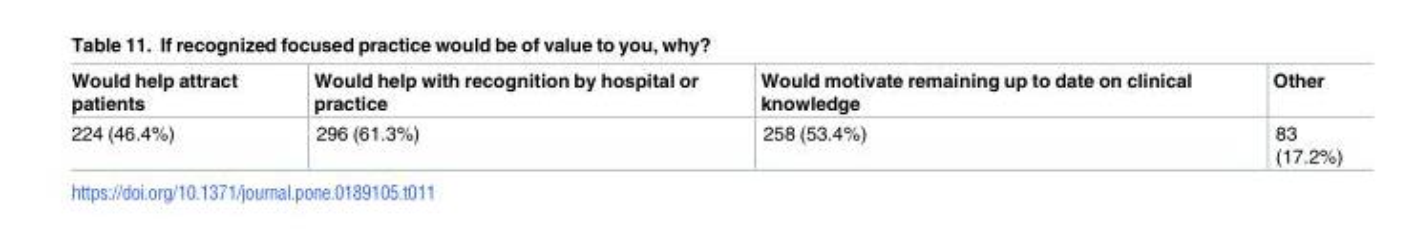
<table><thead><tr><td>Would help attract patients</td><td>Would help with recognition by hospital or practice</td><td>Would motivate remaining up to date on clinical knowledge</td><td>Other</td></tr></thead><tbody><tr><td>224 (46.4%)</td><td>296 (61.3%)</td><td>258 (53.4%)</td><td>83 (17.2%)</td></tr></tbody></table>